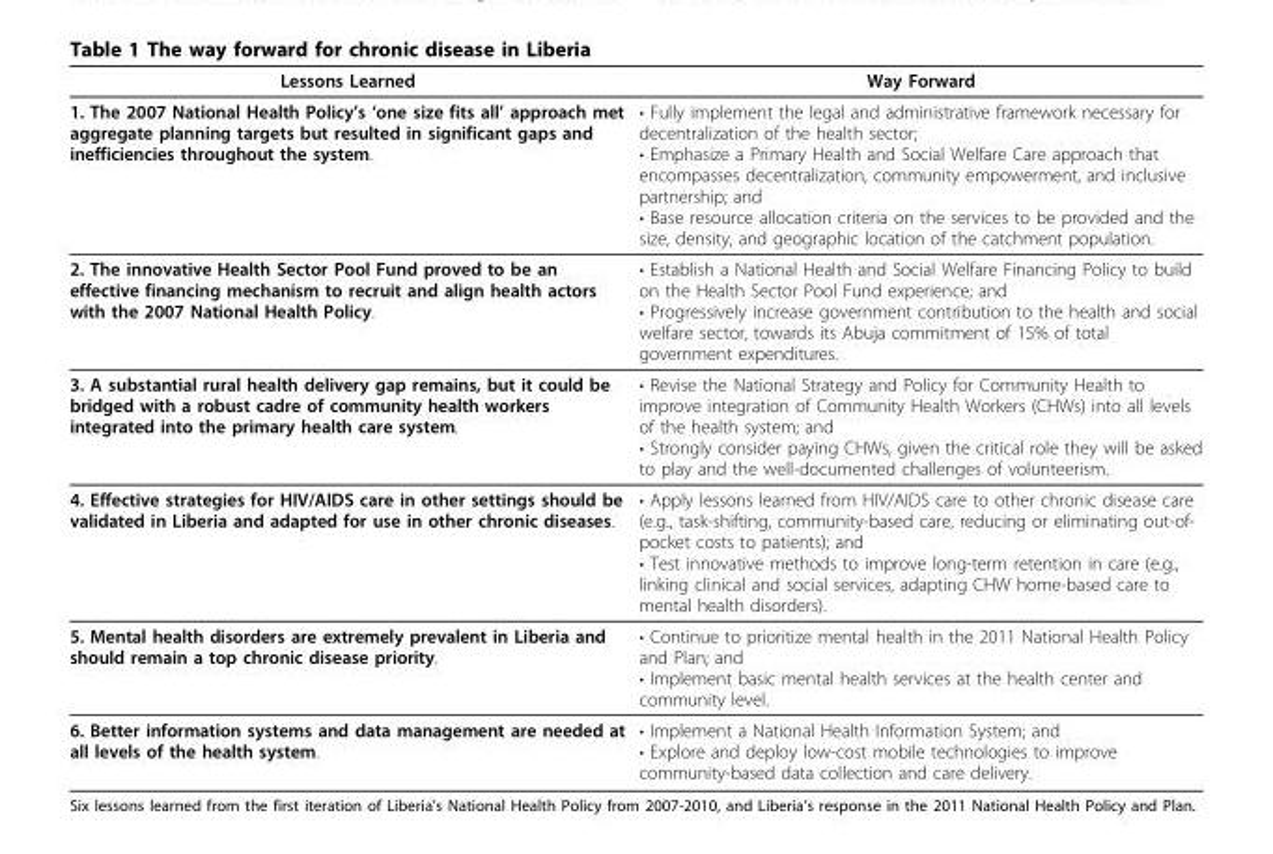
<table><thead><tr><td>Lessons Learned</td><td>Way Forward</td></tr></thead><tbody><tr><td>1. The 2007 National Health Policy’s ‘one size fits all’ approach met aggregate planning targets but resulted in significant gaps and inefficiencies throughout the system.</td><td>• Fully implement the legal and administrative framework necessary for decentralization of the health sector; • Emphasize a Primary Health and Social Welfare Care approach that encompasses decentralization, community empowerment, and inclusive partnership; and • Base resource allocation criteria on the services to be provided and the size, density, and geographic location of the catchment population.</td></tr><tr><td>2. The innovative Health Sector Pool Fund proved to be an effective financing mechanism to recruit and align health actors with the 2007 National Health Policy.</td><td>• Establish a National Health and Social Welfare Financing Policy to build on the Health Sector Pool Fund experience; and • Progressively increase government contribution to the health and social welfare sector, towards its Abuja commitment of 15% of total government expenditures.</td></tr><tr><td>3. A substantial rural health delivery gap remains, but it could be bridged with a robust cadre of community health workers integrated into the primary health care system.</td><td>• Revise the National Strategy and Policy for Community Health to improve integration of Community Health Workers (CHWs) into all levels of the health system; and • Strongly consider paying CHWs, given the critical role they will be asked to play and the well-documented challenges of volunteerism.</td></tr><tr><td>4. Effective strategies for HIV/AIDS care in other settings should be validated in Liberia and adapted for use in other chronic diseases.</td><td>• Apply lessons learned from HIV/AIDS care to other chronic disease care (e.g., task-shifting, community-based care, reducing or eliminating out-of- pocket costs to patients); and • Test innovative methods to improve long-term retention in care (e.g., linking clinical and social services, adapting CHW home-based care to mental health disorders).</td></tr><tr><td>5. Mental health disorders are extremely prevalent in Liberia and should remain a top chronic disease priority.</td><td>• Continue to prioritize mental health in the 2011 National Health Policy and Plan; and • Implement basic mental health services at the health center and community level.</td></tr><tr><td>6. Better information systems and data management are needed at all levels of the health system.</td><td>• Implement a National Health Information System; and • Explore and deploy low-cost mobile technologies to improve community-based data collection and care delivery.</td></tr></tbody></table>